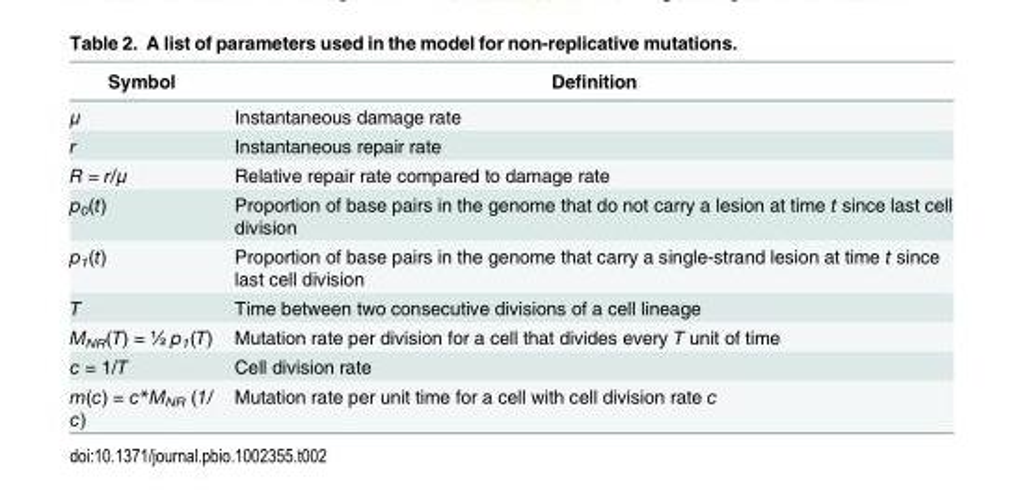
<table><thead><tr><td>Symbol</td><td>Definition</td></tr></thead><tbody><tr><td>μ</td><td>Instantaneous damage rate</td></tr><tr><td>r</td><td>Instantaneous repair rate</td></tr><tr><td>R = r/μ</td><td>Relative repair rate compared to damage rate</td></tr><tr><td>p<sub>0</sub>(t)</td><td>Proportion of base pairs in the genome that do not carry a lesion at time t since last cell division</td></tr><tr><td>p<sub>1</sub>(t)</td><td>Proportion of base pairs in the genome that carry a single-strand lesion at time t since last cell division</td></tr><tr><td>T</td><td>Time between two consecutive divisions of a cell lineage</td></tr><tr><td>M<sub>NR</sub>(T) = ½ p<sub>1</sub>(T)</td><td>Mutation rate per division for a cell that divides every T unit of time</td></tr><tr><td>c = 1/T</td><td>Cell division rate</td></tr><tr><td>m(c) = c*M<sub>NR</sub> (1/ c)</td><td>Mutation rate per unit time for a cell with cell division rate c</td></tr></tbody></table>